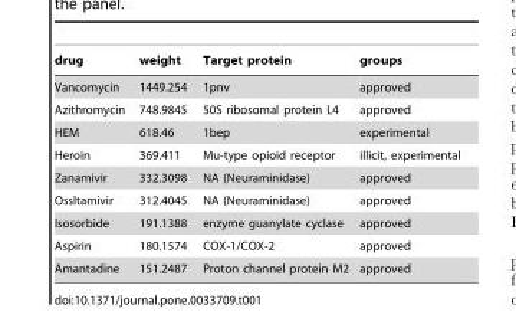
<table><thead><tr><td>drug</td><td>weight</td><td>Target protein</td><td>groups</td></tr></thead><tbody><tr><td>Vancomycin</td><td>1449.254</td><td>1pnv</td><td>approved</td></tr><tr><td>Azithromycin</td><td>748.9845</td><td>50S ribosomal protein L4</td><td>approved</td></tr><tr><td>HEM</td><td>618.46</td><td>1bep</td><td>experimental</td></tr><tr><td>Heroin</td><td>369.411</td><td>Mu-type opioid receptor</td><td>illicit, experimental</td></tr><tr><td>Zanamivir</td><td>332.3098</td><td>NA (Neuraminidase)</td><td>approved</td></tr><tr><td>Ossltamivir</td><td>312.4045</td><td>NA (Neuraminidase)</td><td>approved</td></tr><tr><td>Isosorbide</td><td>191.1388</td><td>enzyme guanylate cyclase</td><td>approved</td></tr><tr><td>Aspirin</td><td>180.1574</td><td>COX-1/COX-2</td><td>approved</td></tr><tr><td>Amantadine</td><td>151.2487</td><td>Proton channel protein M2</td><td>approved</td></tr></tbody></table>